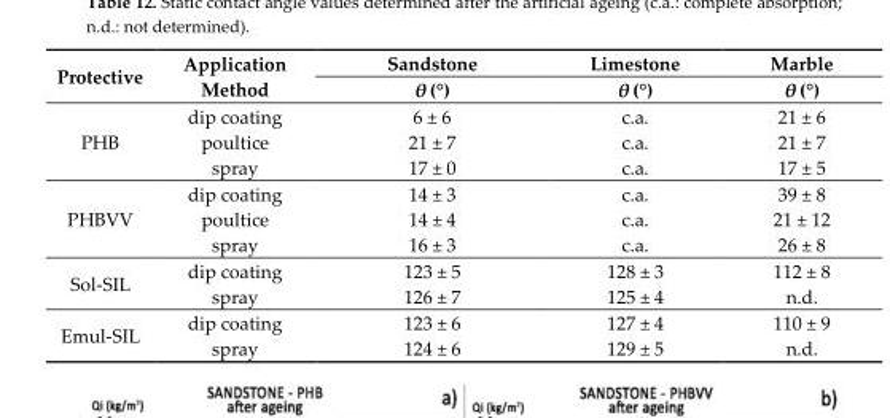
<table><thead><tr><td rowspan="2">Protective</td><td rowspan="2">Application Method</td><td rowspan="2">Sandstone θ (°)</td><td rowspan="2">Limestone θ (°)</td><td rowspan="2">Marble θ (°)</td></tr><tr></tr></thead><tbody><tr><td rowspan="3">PHB</td><td>dip coating</td><td>6 ± 6</td><td>c.a.</td><td>21 ± 6</td></tr><tr><td>poultice</td><td>21 ± 7</td><td>c.a.</td><td>21 ± 7</td></tr><tr><td>spray</td><td>17 ± 0</td><td>c.a.</td><td>17 ± 5</td></tr><tr><td rowspan="3">PHBVV</td><td>dip coating</td><td>14 ± 3</td><td>c.a.</td><td>39 ± 8</td></tr><tr><td>poultice</td><td>14 ± 4</td><td>c.a.</td><td>21 ± 12</td></tr><tr><td>spray</td><td>16 ± 3</td><td>c.a.</td><td>26 ± 8</td></tr><tr><td rowspan="2">Sol-SIL</td><td>dip coating</td><td>123 ± 5</td><td>128 ± 3</td><td>112 ± 8</td></tr><tr><td>spray</td><td>126 ± 7</td><td>125 ± 4</td><td>n.d.</td></tr><tr><td rowspan="2">Emul-SIL</td><td>dip coating</td><td>123 ± 6</td><td>127 ± 4</td><td>110 ± 9</td></tr><tr><td>spray</td><td>124 ± 6</td><td>129 ± 5</td><td>n.d.</td></tr></tbody></table>